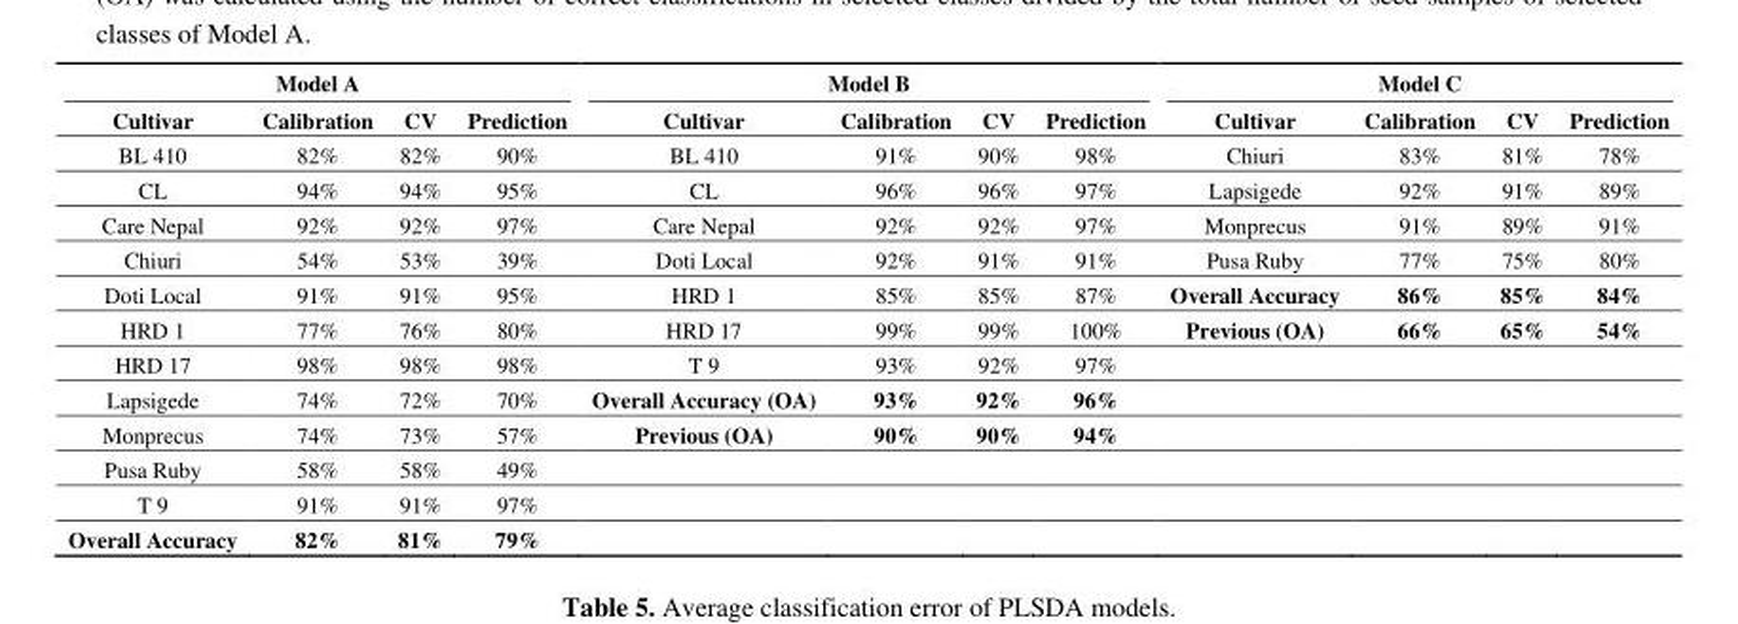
<table><thead><tr><td colspan="4">Model A</td><td colspan="4">Model B</td><td colspan="4">Model C</td></tr><tr><td>Cultivar</td><td>Calibration</td><td>CV</td><td>Prediction</td><td>Cultivar</td><td>Calibration</td><td>CV</td><td>Prediction</td><td>Cultivar</td><td>Calibration</td><td>CV</td><td>Prediction</td></tr></thead><tbody><tr><td>BL 410</td><td>82%</td><td>82%</td><td>90%</td><td>BL 410</td><td>91%</td><td>90%</td><td>98%</td><td>Chiuri</td><td>83%</td><td>81%</td><td>78%</td></tr><tr><td>CL</td><td>94%</td><td>94%</td><td>95%</td><td>CL</td><td>96%</td><td>96%</td><td>97%</td><td>Lapsigede</td><td>92%</td><td>91%</td><td>89%</td></tr><tr><td>Care Nepal</td><td>92%</td><td>92%</td><td>97%</td><td>Care Nepal</td><td>92%</td><td>92%</td><td>97%</td><td>Monprecus</td><td>91%</td><td>89%</td><td>91%</td></tr><tr><td>Chiuri</td><td>54%</td><td>53%</td><td>39%</td><td>Doti Local</td><td>92%</td><td>91%</td><td>91%</td><td>Pusa Ruby</td><td>77%</td><td>75%</td><td>80%</td></tr><tr><td>Doti Local</td><td>91%</td><td>91%</td><td>95%</td><td>HRD 1</td><td>85%</td><td>85%</td><td>87%</td><td>Overall Accuracy</td><td>86%</td><td>85%</td><td>84%</td></tr><tr><td>HRD 1</td><td>77%</td><td>76%</td><td>80%</td><td>HRD 17</td><td>99%</td><td>99%</td><td>100%</td><td>Previous (OA)</td><td>66%</td><td>65%</td><td>54%</td></tr><tr><td>HRD 17</td><td>98%</td><td>98%</td><td>98%</td><td>T 9</td><td>93%</td><td>92%</td><td>97%</td><td></td><td></td><td></td><td></td></tr><tr><td>Lapsigede</td><td>74%</td><td>72%</td><td>70%</td><td>Overall Accuracy (OA)</td><td>93%</td><td>92%</td><td>96%</td><td></td><td></td><td></td><td></td></tr><tr><td>Monprecus</td><td>74%</td><td>73%</td><td>57%</td><td>Previous (OA)</td><td>90%</td><td>90%</td><td>94%</td><td></td><td></td><td></td><td></td></tr><tr><td>Pusa Ruby</td><td>58%</td><td>58%</td><td>49%</td><td></td><td></td><td></td><td></td><td></td><td></td><td></td><td></td></tr><tr><td>T 9</td><td>91%</td><td>91%</td><td>97%</td><td></td><td></td><td></td><td></td><td></td><td></td><td></td><td></td></tr><tr><td>Overall Accuracy</td><td>82%</td><td>81%</td><td>79%</td><td></td><td></td><td></td><td></td><td></td><td></td><td></td><td></td></tr></tbody></table>